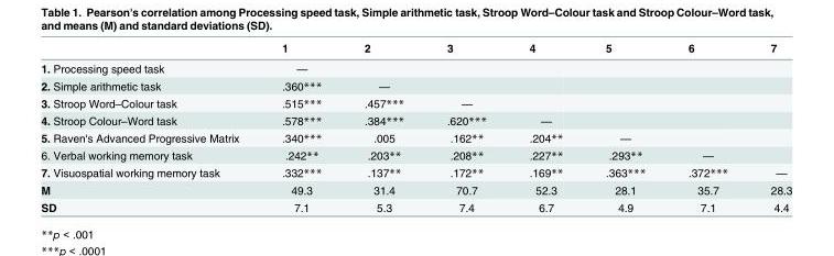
<table><thead><tr><td></td><td>1</td><td>2</td><td>3</td><td>4</td><td>5</td><td>6</td><td>7</td></tr></thead><tbody><tr><td>1. Processing speed task</td><td>—</td><td></td><td></td><td></td><td></td><td></td><td></td></tr><tr><td>2. Simple arithmetic task</td><td>.360***</td><td>—</td><td></td><td></td><td></td><td></td><td></td></tr><tr><td>3. Stroop Word–Colour task</td><td>.515***</td><td>.457***</td><td>—</td><td></td><td></td><td></td><td></td></tr><tr><td>4. Stroop Colour–Word task</td><td>.578***</td><td>.384***</td><td>.620***</td><td>—</td><td></td><td></td><td></td></tr><tr><td>5. Raven&#x27;s Advanced Progressive Matrix</td><td>.340***</td><td>.005</td><td>.162**</td><td>.204**</td><td>—</td><td></td><td></td></tr><tr><td>6. Verbal working memory task</td><td>.242**</td><td>.203**</td><td>.208**</td><td>.227**</td><td>.293**</td><td>—</td><td></td></tr><tr><td>7. Visuospatial working memory task</td><td>.332***</td><td>.137**</td><td>.172**</td><td>.169**</td><td>.363***</td><td>.372***</td><td>—</td></tr><tr><td>M</td><td>49.3</td><td>31.4</td><td>70.7</td><td>52.3</td><td>28.1</td><td>35.7</td><td>28.3</td></tr><tr><td>SD</td><td>7.1</td><td>5.3</td><td>7.4</td><td>6.7</td><td>4.9</td><td>7.1</td><td>4.4</td></tr></tbody></table>